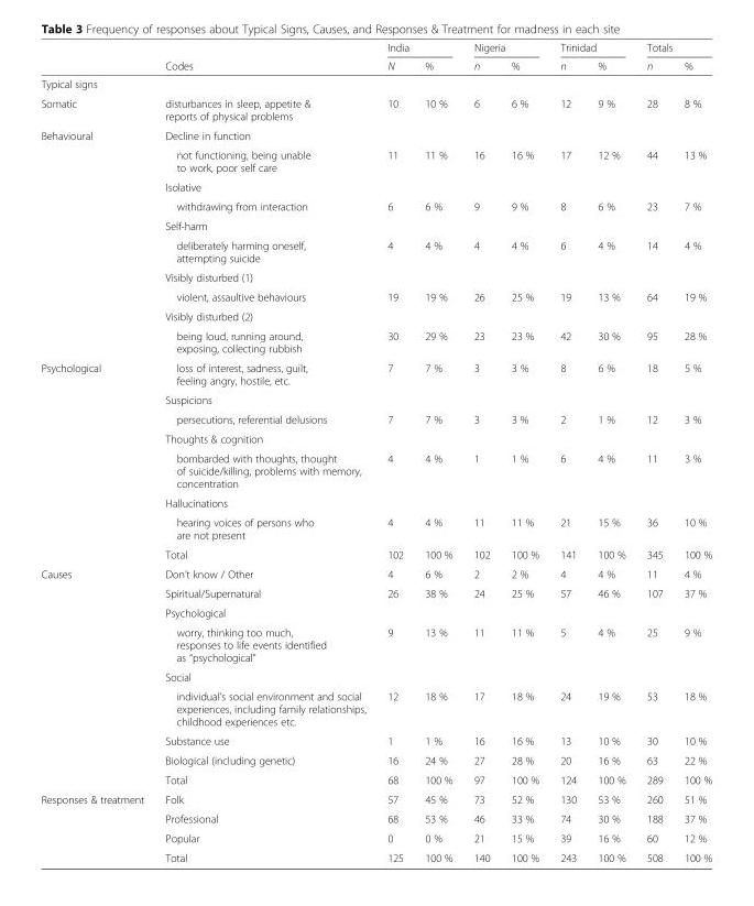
<table><thead><tr><td rowspan="2"></td><td rowspan="2">Codes</td><td colspan="2">India</td><td colspan="2">Nigeria</td><td colspan="2">Trinidad</td><td colspan="2">Totals</td></tr><tr><td>N</td><td>%</td><td>n</td><td>%</td><td>n</td><td>%</td><td>n</td><td>%</td></tr></thead><tbody><tr><td colspan="10">Typical signs</td></tr><tr><td>Somatic</td><td>disturbances in sleep, appetite &amp; reports of physical problems</td><td>10</td><td>10 %</td><td>6</td><td>6 %</td><td>12</td><td>9 %</td><td>28</td><td>8 %</td></tr><tr><td rowspan="10">Behavioural</td><td colspan="9">Decline in function</td></tr><tr><td>not functioning, being unable to work, poor self care</td><td>11</td><td>11 %</td><td>16</td><td>16 %</td><td>17</td><td>12 %</td><td>44</td><td>13 %</td></tr><tr><td colspan="9">Isolative</td></tr><tr><td>withdrawing from interaction</td><td>6</td><td>6 %</td><td>9</td><td>9 %</td><td>8</td><td>6 %</td><td>23</td><td>7 %</td></tr><tr><td colspan="9">Self-harm</td></tr><tr><td>deliberately harming oneself, attempting suicide</td><td>4</td><td>4 %</td><td>4</td><td>4 %</td><td>6</td><td>4 %</td><td>14</td><td>4 %</td></tr><tr><td colspan="9">Visibly disturbed (1)</td></tr><tr><td>violent, assaultive behaviours</td><td>19</td><td>19 %</td><td>26</td><td>25 %</td><td>19</td><td>13 %</td><td>64</td><td>19 %</td></tr><tr><td colspan="9">Visibly disturbed (2)</td></tr><tr><td>being loud, running around, exposing, collecting rubbish</td><td>30</td><td>29 %</td><td>23</td><td>23 %</td><td>42</td><td>30 %</td><td>95</td><td>28 %</td></tr><tr><td rowspan="8">Psychological</td><td>loss of interest, sadness, guilt, feeling angry, hostile, etc.</td><td>7</td><td>7 %</td><td>3</td><td>3 %</td><td>8</td><td>6 %</td><td>18</td><td>5 %</td></tr><tr><td colspan="9">Suspicions</td></tr><tr><td>persecutions, referential delusions</td><td>7</td><td>7 %</td><td>3</td><td>3 %</td><td>2</td><td>1 %</td><td>12</td><td>3 %</td></tr><tr><td colspan="9">Thoughts &amp; cognition</td></tr><tr><td>bombarded with thoughts, thought of suicide/killing, problems with memory, concentration</td><td>4</td><td>4 %</td><td>1</td><td>1 %</td><td>6</td><td>4 %</td><td>11</td><td>3 %</td></tr><tr><td colspan="9">Hallucinations</td></tr><tr><td>hearing voices of persons who are not present</td><td>4</td><td>4 %</td><td>11</td><td>11 %</td><td>21</td><td>15 %</td><td>36</td><td>10 %</td></tr><tr><td>Total</td><td>102</td><td>100 %</td><td>102</td><td>100 %</td><td>141</td><td>100 %</td><td>345</td><td>100 %</td></tr><tr><td rowspan="9">Causes</td><td>Don’t know / Other</td><td>4</td><td>6 %</td><td>2</td><td>2 %</td><td>4</td><td>4 %</td><td>11</td><td>4 %</td></tr><tr><td>Spiritual/Supernatural</td><td>26</td><td>38 %</td><td>24</td><td>25 %</td><td>57</td><td>46 %</td><td>107</td><td>37 %</td></tr><tr><td colspan="9">Psychological</td></tr><tr><td>worry, thinking too much, responses to life events identified as “psychological”</td><td>9</td><td>13 %</td><td>11</td><td>11 %</td><td>5</td><td>4 %</td><td>25</td><td>9 %</td></tr><tr><td colspan="9">Social</td></tr><tr><td>individual’s social environment and social experiences, including family relationships, childhood experiences etc.</td><td>12</td><td>18 %</td><td>17</td><td>18 %</td><td>24</td><td>19 %</td><td>53</td><td>18 %</td></tr><tr><td>Substance use</td><td>1</td><td>1 %</td><td>16</td><td>16 %</td><td>13</td><td>10 %</td><td>30</td><td>10 %</td></tr><tr><td>Biological (including genetic)</td><td>16</td><td>24 %</td><td>27</td><td>28 %</td><td>20</td><td>16 %</td><td>63</td><td>22 %</td></tr><tr><td>Total</td><td>68</td><td>100 %</td><td>97</td><td>100 %</td><td>124</td><td>100 %</td><td>289</td><td>100 %</td></tr><tr><td rowspan="4">Responses &amp; treatment</td><td>Folk</td><td>57</td><td>45 %</td><td>73</td><td>52 %</td><td>130</td><td>53 %</td><td>260</td><td>51 %</td></tr><tr><td>Professional</td><td>68</td><td>53 %</td><td>46</td><td>33 %</td><td>74</td><td>30 %</td><td>188</td><td>37 %</td></tr><tr><td>Popular</td><td>0</td><td>0 %</td><td>21</td><td>15 %</td><td>39</td><td>16 %</td><td>60</td><td>12 %</td></tr><tr><td>Total</td><td>125</td><td>100 %</td><td>140</td><td>100 %</td><td>243</td><td>100 %</td><td>508</td><td>100 %</td></tr></tbody></table>